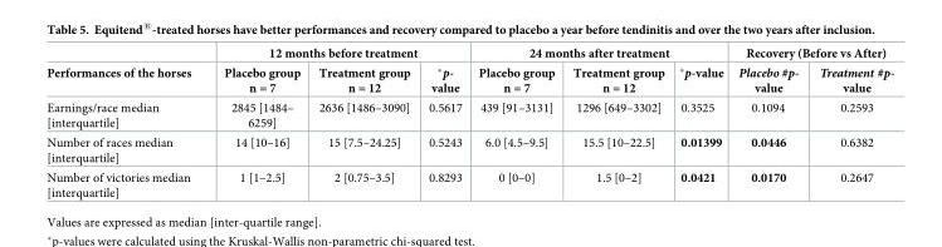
<table><thead><tr><td rowspan="2">Performances of the horses</td><td colspan="3">12 months before treatment</td><td colspan="3">24 months after treatment</td><td colspan="2">Recovery (Before vs After)</td></tr><tr><td>Placebo group n = 7</td><td>Treatment group n = 12</td><td>*p- value</td><td>Placebo group n = 7</td><td>Treatment group n = 12</td><td>*p-value</td><td>Placebo #p- value</td><td>Treatment #p- value</td></tr></thead><tbody><tr><td>Earnings/race median [interquartile]</td><td>2845 [1484– 6259]</td><td>2636 [1486–3090]</td><td>0.5617</td><td>439 [91–3131]</td><td>1296 [649–3302]</td><td>0.3525</td><td>0.1094</td><td>0.2593</td></tr><tr><td>Number of races median [interquartile]</td><td>14 [10–16]</td><td>15 [7.5–24.25]</td><td>0.5243</td><td>6.0 [4.5–9.5]</td><td>15.5 [10–22.5]</td><td>0.01399</td><td>0.0446</td><td>0.6382</td></tr><tr><td>Number of victories median [interquartile]</td><td>1 [1–2.5]</td><td>2 [0.75–3.5]</td><td>0.8293</td><td>0 [0–0]</td><td>1.5 [0–2]</td><td>0.0421</td><td>0.0170</td><td>0.2647</td></tr></tbody></table>